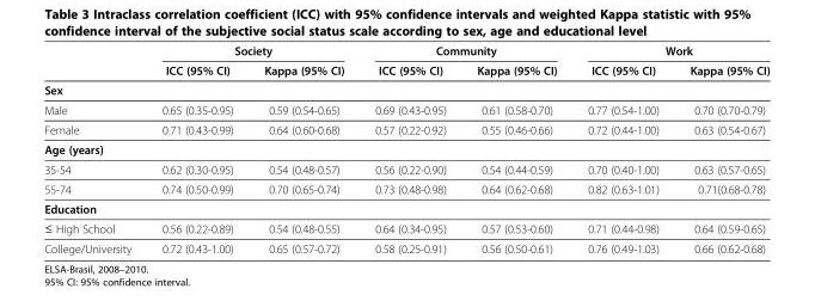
<table><thead><tr><td rowspan="2"></td><td colspan="2">Society</td><td colspan="2">Community</td><td colspan="2">Work</td></tr><tr><td>ICC (95% CI)</td><td>Kappa (95% CI)</td><td>ICC (95% CI)</td><td>Kappa (95% CI)</td><td>ICC (95% CI)</td><td>Kappa (95% CI)</td></tr></thead><tbody><tr><td colspan="7">Sex</td></tr><tr><td>Male</td><td>0.65 (0.35-0.95)</td><td>0.59 (0.54-0.65)</td><td>0.69 (0.43-0.95)</td><td>0.61 (0.58-0.70)</td><td>0.77 (0.54-1.00)</td><td>0.70 (0.70-0.79)</td></tr><tr><td>Female</td><td>0.71 (0.43-0.99)</td><td>0.64 (0.60-0.68)</td><td>0.57 (0.22-0.92)</td><td>0.55 (0.46-0.66)</td><td>0.72 (0.44-1.00)</td><td>0.63 (0.54-0.67)</td></tr><tr><td colspan="7">Age (years)</td></tr><tr><td>35-54</td><td>0.62 (0.30-0.95)</td><td>0.54 (0.48-0.57)</td><td>0.56 (0.22-0.90)</td><td>0.54 (0.44-0.59)</td><td>0.70 (0.40-1.00)</td><td>0.63 (0.57-0.65)</td></tr><tr><td>55-74</td><td>0.74 (0.50-0.99)</td><td>0.70 (0.65-0.74)</td><td>0.73 (0.48-0.98)</td><td>0.64 (0.62-0.68)</td><td>0.82 (0.63-1.01)</td><td>0.71(0.68-0.78)</td></tr><tr><td colspan="7">Education</td></tr><tr><td>≤ High School</td><td>0.56 (0.22-0.89)</td><td>0.54 (0.48-0.55)</td><td>0.64 (0.34-0.95)</td><td>0.57 (0.53-0.60)</td><td>0.71 (0.44-0.98)</td><td>0.64 (0.59-0.65)</td></tr><tr><td>College/University</td><td>0.72 (0.43-1.00)</td><td>0.65 (0.57-0.72)</td><td>0.58 (0.25-0.91)</td><td>0.56 (0.50-0.61)</td><td>0.76 (0.49-1.03)</td><td>0.66 (0.62-0.68)</td></tr></tbody></table>